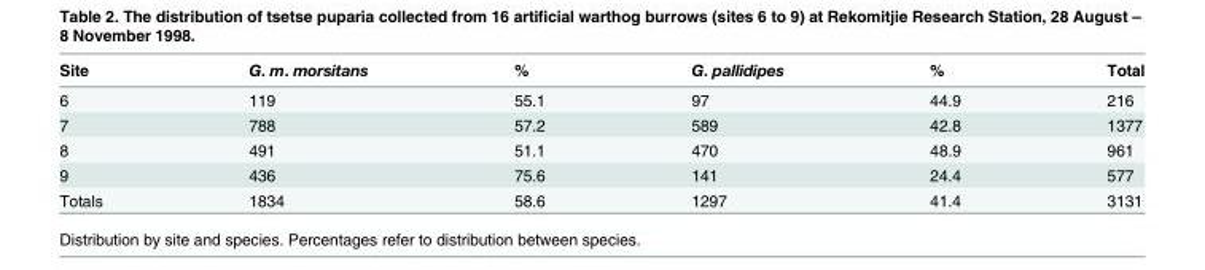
<table><thead><tr><td>Site</td><td>G. m. morsitans</td><td>%</td><td>G. pallidipes</td><td>%</td><td>Total</td></tr></thead><tbody><tr><td>6</td><td>119</td><td>55.1</td><td>97</td><td>44.9</td><td>216</td></tr><tr><td>7</td><td>788</td><td>57.2</td><td>589</td><td>42.8</td><td>1377</td></tr><tr><td>8</td><td>491</td><td>51.1</td><td>470</td><td>48.9</td><td>961</td></tr><tr><td>9</td><td>436</td><td>75.6</td><td>141</td><td>24.4</td><td>577</td></tr><tr><td>Totals</td><td>1834</td><td>58.6</td><td>1297</td><td>41.4</td><td>3131</td></tr></tbody></table>